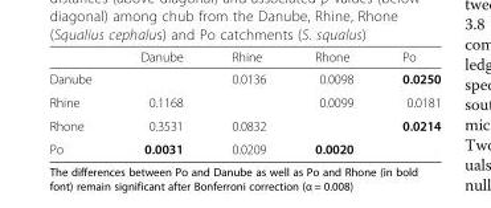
<table><thead><tr><td></td><td>Danube</td><td>Rhine</td><td>Rhone</td><td>Po</td></tr></thead><tbody><tr><td>Danube</td><td></td><td>0.0136</td><td>0.0098</td><td>0.0250</td></tr><tr><td>Rhine</td><td>0.1168</td><td></td><td>0.0099</td><td>0.0181</td></tr><tr><td>Rhone</td><td>0.3531</td><td>0.0832</td><td></td><td>0.0214</td></tr><tr><td>Po</td><td>0.0031</td><td>0.0209</td><td>0.0020</td><td></td></tr></tbody></table>